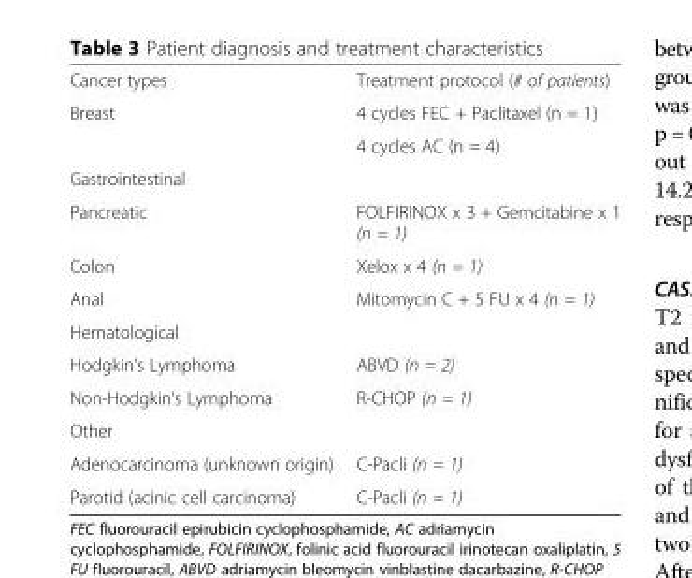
<table><tbody><tr><td>Cancer types</td><td>Treatment protocol (# of patients)</td></tr><tr><td rowspan="2">Breast</td><td>4 cycles FEC + Paclitaxel (n = 1)</td></tr><tr><td>4 cycles AC (n = 4)</td></tr><tr><td colspan="2">Gastrointestinal</td></tr><tr><td>Pancreatic</td><td>FOLFIRINOX x 3 + Gemcitabine x 1 (n = 1)</td></tr><tr><td>Colon</td><td>Xelox x 4 (n = 1)</td></tr><tr><td>Anal</td><td>Mitomycin C + 5 FU x 4 (n = 1)</td></tr><tr><td colspan="2">Hematological</td></tr><tr><td>Hodgkin’s Lymphoma</td><td>ABVD (n = 2)</td></tr><tr><td>Non-Hodgkin’s Lymphoma</td><td>R-CHOP (n = 1)</td></tr><tr><td colspan="2">Other</td></tr><tr><td>Adenocarcinoma (unknown origin)</td><td>C-Pacli (n = 1)</td></tr><tr><td>Parotid (acinic cell carcinoma)</td><td>C-Pacli (n = 1)</td></tr></tbody></table>